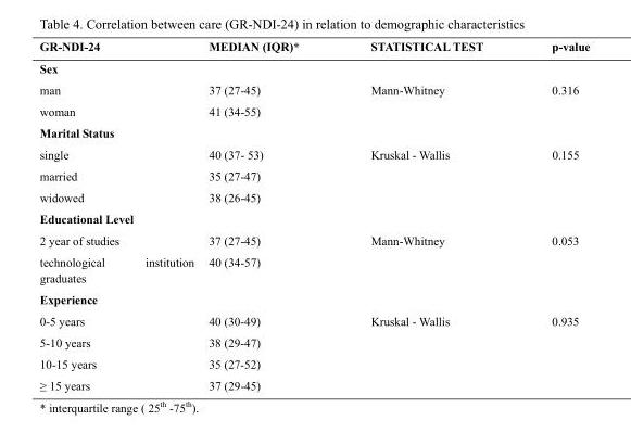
<table><thead><tr><td>GR-NDI-24</td><td>MEDIAN (IQR)*</td><td>STATISTICAL TEST</td><td>p-value</td></tr></thead><tbody><tr><td colspan="4">Sex</td></tr><tr><td>man</td><td>37 (27-45)</td><td>Μann-Whitney</td><td>0.316</td></tr><tr><td>woman</td><td>41 (34-55)</td><td></td><td></td></tr><tr><td colspan="4">Marital Status</td></tr><tr><td>single</td><td>40 (37- 53)</td><td>Kruskal - Wallis</td><td>0.155</td></tr><tr><td>married</td><td>35 (27-47)</td><td></td><td></td></tr><tr><td>widowed</td><td>38 (26-45)</td><td></td><td></td></tr><tr><td colspan="4">Educational Level</td></tr><tr><td>2 year of studies</td><td>37 (27-45)</td><td>Μann-Whitney</td><td>0.053</td></tr><tr><td>technological institution graduates</td><td>40 (34-57)</td><td></td><td></td></tr><tr><td colspan="4">Experience</td></tr><tr><td>0-5 years</td><td>40 (30-49)</td><td>Kruskal - Wallis</td><td>0.935</td></tr><tr><td>5-10 years</td><td>38 (29-47)</td><td></td><td></td></tr><tr><td>10-15 years</td><td>35 (27-52)</td><td></td><td></td></tr><tr><td>≥ 15 years</td><td>37 (29-45)</td><td></td><td></td></tr></tbody></table>